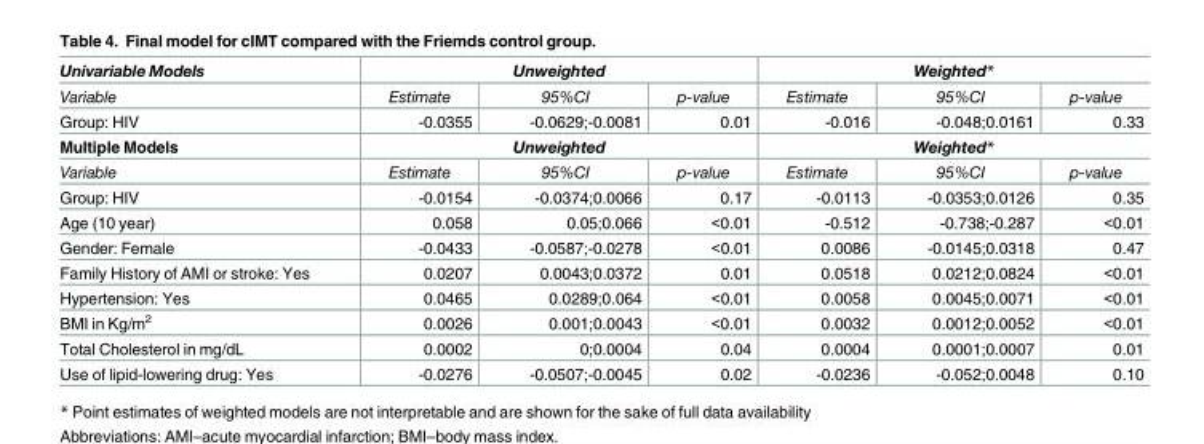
<table><thead><tr><td rowspan="2">Univariable Models Variable</td><td colspan="3">Unweighted</td><td colspan="3">Weighted*</td></tr><tr><td>Estimate</td><td>95%CI</td><td>p-value</td><td>Estimate</td><td>95%CI</td><td>p-value</td></tr></thead><tbody><tr><td>Group: HIV</td><td>-0.0355</td><td>-0.0629;-0.0081</td><td>0.01</td><td>-0.016</td><td>-0.048;0.0161</td><td>0.33</td></tr><tr><td>Multiple Models</td><td colspan="3">Unweighted</td><td colspan="3">Weighted*</td></tr><tr><td>Variable</td><td>Estimate</td><td>95%CI</td><td>p-value</td><td>Estimate</td><td>95%CI</td><td>p-value</td></tr><tr><td>Group: HIV</td><td>-0.0154</td><td>-0.0374;0.0066</td><td>0.17</td><td>-0.0113</td><td>-0.0353;0.0126</td><td>0.35</td></tr><tr><td>Age (10 year)</td><td>0.058</td><td>0.05;0.066</td><td>&lt;0.01</td><td>-0.512</td><td>-0.738;-0.287</td><td>&lt;0.01</td></tr><tr><td>Gender: Female</td><td>-0.0433</td><td>-0.0587;-0.0278</td><td>&lt;0.01</td><td>0.0086</td><td>-0.0145;0.0318</td><td>0.47</td></tr><tr><td>Family History of AMI or stroke: Yes</td><td>0.0207</td><td>0.0043;0.0372</td><td>0.01</td><td>0.0518</td><td>0.0212;0.0824</td><td>&lt;0.01</td></tr><tr><td>Hypertension: Yes</td><td>0.0465</td><td>0.0289;0.064</td><td>&lt;0.01</td><td>0.0058</td><td>0.0045;0.0071</td><td>&lt;0.01</td></tr><tr><td>BMI in Kg/m<sup>2</sup></td><td>0.0026</td><td>0.001;0.0043</td><td>&lt;0.01</td><td>0.0032</td><td>0.0012;0.0052</td><td>&lt;0.01</td></tr><tr><td>Total Cholesterol in mg/dL</td><td>0.0002</td><td>0;0.0004</td><td>0.04</td><td>0.0004</td><td>0.0001;0.0007</td><td>0.01</td></tr><tr><td>Use of lipid-lowering drug: Yes</td><td>-0.0276</td><td>-0.0507;-0.0045</td><td>0.02</td><td>-0.0236</td><td>-0.052;0.0048</td><td>0.10</td></tr></tbody></table>